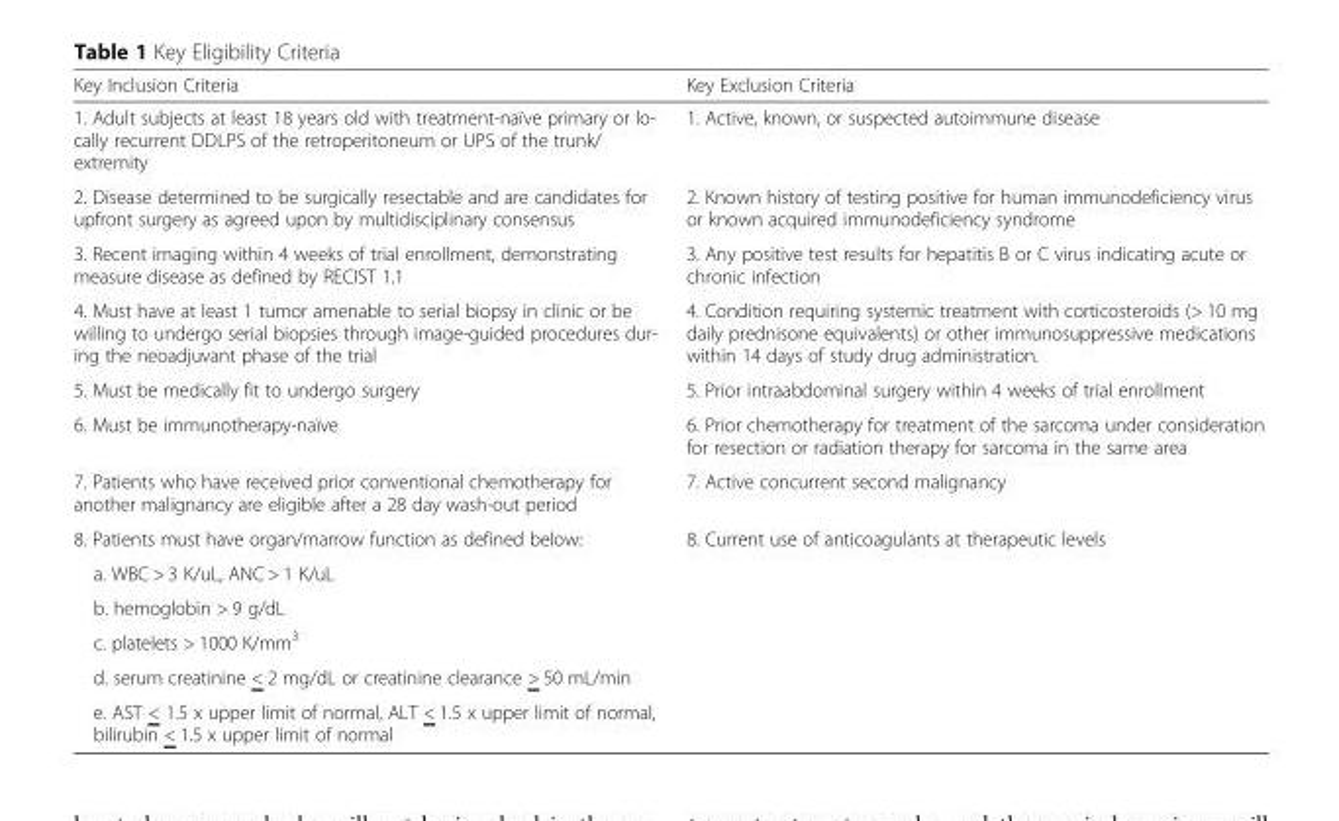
<table><thead><tr><td>Key Inclusion Criteria</td><td>Key Exclusion Criteria</td></tr></thead><tbody><tr><td>1. Adult subjects at least 18 years old with treatment-naïve primary or lo- cally recurrent DDLPS of the retroperitoneum or UPS of the trunk/ extremity</td><td>1. Active, known, or suspected autoimmune disease</td></tr><tr><td>2. Disease determined to be surgically resectable and are candidates for upfront surgery as agreed upon by multidisciplinary consensus</td><td>2. Known history of testing positive for human immunodeficiency virus or known acquired immunodeficiency syndrome</td></tr><tr><td>3. Recent imaging within 4 weeks of trial enrollment, demonstrating measure disease as defined by RECIST 1.1</td><td>3. Any positive test results for hepatitis B or C virus indicating acute or chronic infection</td></tr><tr><td>4. Must have at least 1 tumor amenable to serial biopsy in clinic or be willing to undergo serial biopsies through image-guided procedures dur- ing the neoadjuvant phase of the trial</td><td>4. Condition requiring systemic treatment with corticosteroids (&gt; 10 mg daily prednisone equivalents) or other immunosuppressive medications within 14 days of study drug administration.</td></tr><tr><td>5. Must be medically fit to undergo surgery</td><td>5. Prior intraabdominal surgery within 4 weeks of trial enrollment</td></tr><tr><td>6. Must be immunotherapy-naïve</td><td>6. Prior chemotherapy for treatment of the sarcoma under consideration for resection or radiation therapy for sarcoma in the same area</td></tr><tr><td>7. Patients who have received prior conventional chemotherapy for another malignancy are eligible after a 28 day wash-out period</td><td>7. Active concurrent second malignancy</td></tr><tr><td>8. Patients must have organ/marrow function as defined below:</td><td rowspan="6">8. Current use of anticoagulants at therapeutic levels</td></tr><tr><td>a. WBC &gt; 3 K/uL, ANC &gt; 1 K/uL</td></tr><tr><td>b. hemoglobin &gt; 9 g/dL</td></tr><tr><td>c. platelets &gt; 1000 K/mm<sup>3</sup></td></tr><tr><td>d. serum creatinine &lt; 2 mg/dL or creatinine clearance &gt; 50 mL/min</td></tr><tr><td>e. AST &lt; 1.5 x upper limit of normal, ALT &lt; 1.5 x upper limit of normal, bilirubin &lt; 1.5 x upper limit of normal</td></tr></tbody></table>